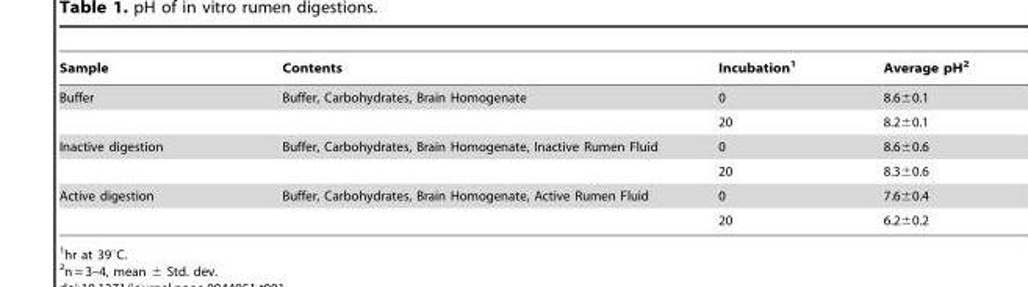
<table><thead><tr><td>Sample</td><td>Contents</td><td>Incubation<sup>1</sup></td><td>Average pH<sup>2</sup></td></tr></thead><tbody><tr><td rowspan="2">Buffer</td><td>Buffer, Carbohydrates, Brain Homogenate</td><td>0</td><td>8.6±0.1</td></tr><tr><td></td><td>20</td><td>8.2±0.1</td></tr><tr><td rowspan="2">Inactive digestion</td><td>Buffer, Carbohydrates, Brain Homogenate, Inactive Rumen Fluid</td><td>0</td><td>8.6±0.6</td></tr><tr><td></td><td>20</td><td>8.3±0.6</td></tr><tr><td rowspan="2">Active digestion</td><td>Buffer, Carbohydrates, Brain Homogenate, Active Rumen Fluid</td><td>0</td><td>7.6±0.4</td></tr><tr><td></td><td>20</td><td>6.2±0.2</td></tr></tbody></table>